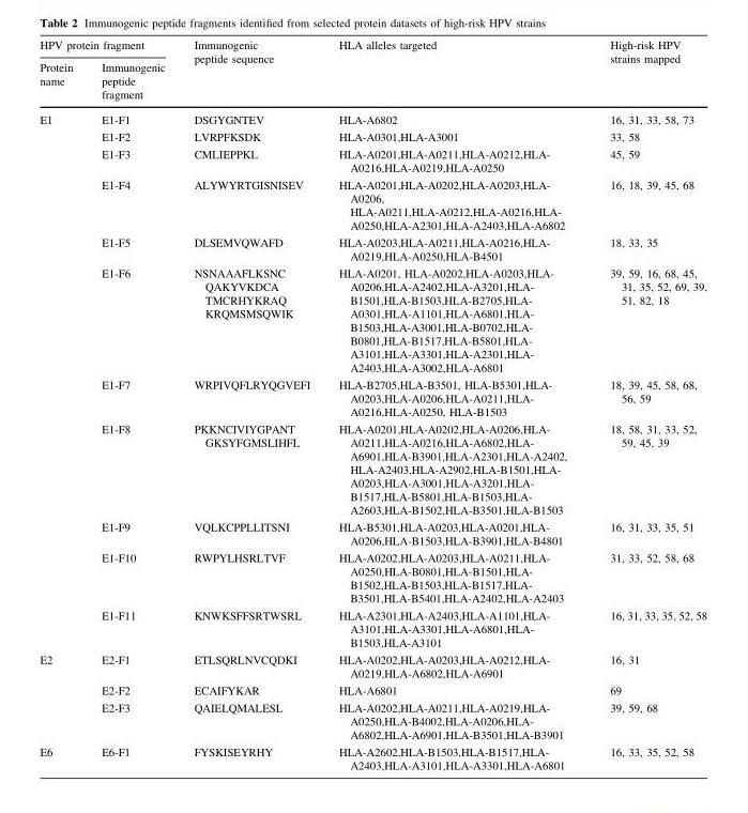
<table><thead><tr><td colspan="2">HPV protein fragment</td><td rowspan="2">Immunogenic peptide sequence</td><td rowspan="2">HLA alleles targeted</td><td rowspan="2">High-risk HPV strains mapped</td></tr><tr><td>Protein name</td><td>Immunogenic peptide fragment</td></tr></thead><tbody><tr><td rowspan="11">E1</td><td>E1-F1</td><td>DSGYGNTEV</td><td>HLA-A6802</td><td>16, 31, 33, 58, 73</td></tr><tr><td>E1-F2</td><td>LVRPFKSDK</td><td>HLA-A0301,HLA-A3001</td><td>33, 58</td></tr><tr><td>E1-F3</td><td>CMLIEPPKL</td><td>HLA-A0201,HLA-A0211,HLA-A0212,HLA- A0216,HLA-A0219,HLA-A0250</td><td>45, 59</td></tr><tr><td>E1-F4</td><td>ALYWYRTGISNISEV</td><td>HLA-A0201,HLA-A0202,HLA-A0203,HLA- A0206, HLA-A0211,HLA-A0212,HLA-A0216,HLA- A0250,HLA-A2301,HLA-A2403,HLA-A6802</td><td>16, 18, 39, 45, 68</td></tr><tr><td>E1-F5</td><td>DLSEMVQWAFD</td><td>HLA-A0203,HLA-A0211,HLA-A0216,HLA- A0219,HLA-A0250,HLA-B4501</td><td>18, 33, 35</td></tr><tr><td>E1-F6</td><td>NSNAAAFLKSNC QAKYVKDCA TMCRHYKRAQ KRQMSMSQWIK</td><td>HLA-A0201, HLA-A0202,HLA-A0203,HLA- A0206,HLA-A2402,HLA-A3201,HLA- B1501,HLA-B1503,HLA-B2705,HLA- A0301,HLA-A1101,HLA-A6801,HLA- B1503,HLA-A3001,HLA-B0702,HLA- B0801,HLA-B1517,HLA-B5801,HLA- A3101,HLA-A3301,HLA-A2301,HLA- A2403,HLA-A3002,HLA-A6801</td><td>39, 59, 16, 68, 45, 31, 35, 52, 69, 39, 51, 82, 18</td></tr><tr><td>E1-F7</td><td>WRPIVQFLRYQGVEFI</td><td>HLA-B2705,HLA-B3501, HLA-B5301,HLA- A0203,HLA-A0206,HLA-A0211,HLA- A0216,HLA-A0250, HLA-B1503</td><td>18, 39, 45, 58, 68, 56, 59</td></tr><tr><td>E1-F8</td><td>PKKNCIVIYGPANT GKSYFGMSLIHFL</td><td>HLA-A0201,HLA-A0202,HLA-A0206,HLA- A0211,HLA-A0216,HLA-A6802,HLA- A6901,HLA-B3901,HLA-A2301,HLA-A2402, HLA-A2403,HLA-A2902,HLA-B1501,HLA- A0203,HLA-A3001,HLA-A3201,HLA- B1517,HLA-B5801,HLA-B1503,HLA- A2603,HLA-B1502,HLA-B3501,HLA-B1503</td><td>18, 58, 31, 33, 52, 59, 45, 39</td></tr><tr><td>E1-F9</td><td>VQLKCPPLLITSNI</td><td>HLA-B5301,HLA-A0203,HLA-A0201,HLA- A0206,HLA-B1503,HLA-B3901,HLA-B4801</td><td>16, 31, 33, 35, 51</td></tr><tr><td>E1-F10</td><td>RWPYLHSRLTVF</td><td>HLA-A0202,HLA-A0203,HLA-A0211,HLA- A0250,HLA-B0801,HLA-B1501,HLA- B1502,HLA-B1503,HLA-B1517,HLA- B3501,HLA-B5401,HLA-A2402,HLA-A2403</td><td>31, 33, 52, 58, 68</td></tr><tr><td>E1-F11</td><td>KNWKSFFSRTWSRL</td><td>HLA-A2301,HLA-A2403,HLA-A1101,HLA- A3101,HLA-A3301,HLA-A6801,HLA- B1503,HLA-A3101</td><td>16, 31, 33, 35, 52, 58</td></tr><tr><td rowspan="3">E2</td><td>E2-F1</td><td>ETLSQRLNVCQDKI</td><td>HLA-A0202,HLA-A0203,HLA-A0212,HLA- A0219,HLA-A6802,HLA-A6901</td><td>16, 31</td></tr><tr><td>E2-F2</td><td>ECAIFYKAR</td><td>HLA-A6801</td><td>69</td></tr><tr><td>E2-F3</td><td>QAIELQMALESL</td><td>HLA-A0202,HLA-A0211,HLA-A0219,HLA- A0250,HLA-B4002,HLA-A0206,HLA- A6802,HLA-A6901,HLA-B3501,HLA-B3901</td><td>39, 59, 68</td></tr><tr><td>E6</td><td>E6-F1</td><td>FYSKISEYRHY</td><td>HLA-A2602,HLA-B1503,HLA-B1517,HLA- A2403,HLA-A3101,HLA-A3301,HLA-A6801</td><td>16, 33, 35, 52, 58</td></tr></tbody></table>